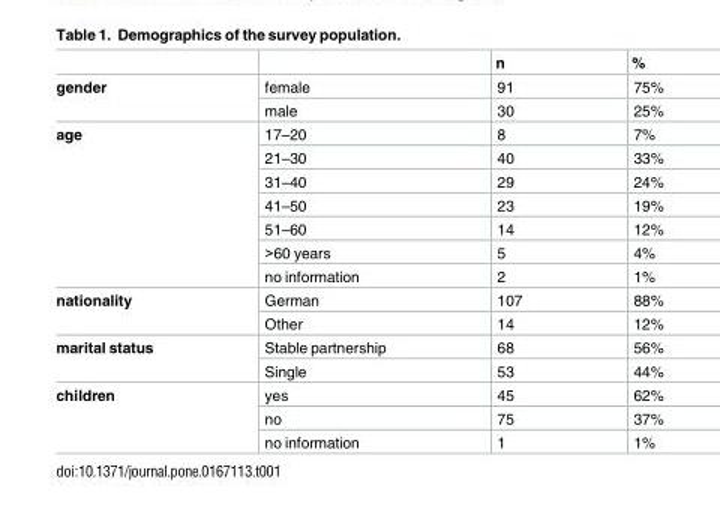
<table><thead><tr><td></td><td></td><td>n</td><td>%</td></tr></thead><tbody><tr><td rowspan="2">gender</td><td>female</td><td>91</td><td>75%</td></tr><tr><td>male</td><td>30</td><td>25%</td></tr><tr><td rowspan="7">age</td><td>17–20</td><td>8</td><td>7%</td></tr><tr><td>21–30</td><td>40</td><td>33%</td></tr><tr><td>31–40</td><td>29</td><td>24%</td></tr><tr><td>41–50</td><td>23</td><td>19%</td></tr><tr><td>51–60</td><td>14</td><td>12%</td></tr><tr><td>&gt;60 years</td><td>5</td><td>4%</td></tr><tr><td>no information</td><td>2</td><td>1%</td></tr><tr><td rowspan="2">nationality</td><td>German</td><td>107</td><td>88%</td></tr><tr><td>Other</td><td>14</td><td>12%</td></tr><tr><td rowspan="2">marital status</td><td>Stable partnership</td><td>68</td><td>56%</td></tr><tr><td>Single</td><td>53</td><td>44%</td></tr><tr><td rowspan="3">children</td><td>yes</td><td>45</td><td>62%</td></tr><tr><td>no</td><td>75</td><td>37%</td></tr><tr><td>no information</td><td>1</td><td>1%</td></tr></tbody></table>